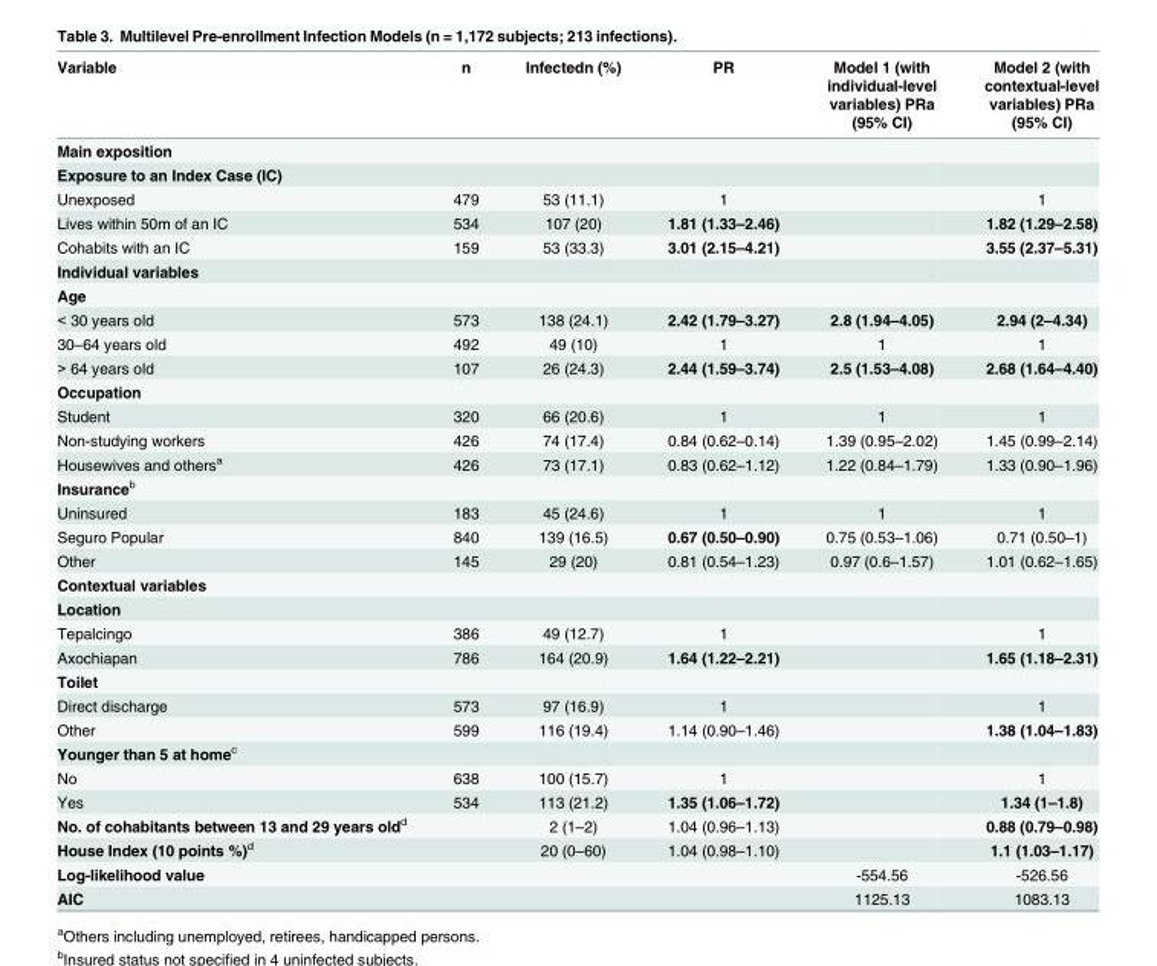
<table><thead><tr><td>Variable</td><td>n</td><td>Infectedn (%)</td><td>PR</td><td>Model 1 (with individual-level variables) PRa (95% CI)</td><td>Model 2 (with contextual-level variables) PRa (95% CI)</td></tr></thead><tbody><tr><td colspan="6">Main exposition</td></tr><tr><td colspan="6">Exposure to an Index Case (IC)</td></tr><tr><td>Unexposed</td><td>479</td><td>53 (11.1)</td><td>1</td><td></td><td>1</td></tr><tr><td>Lives within 50m of an IC</td><td>534</td><td>107 (20)</td><td>1.81 (1.33–2.46)</td><td></td><td>1.82 (1.29–2.58)</td></tr><tr><td>Cohabits with an IC</td><td>159</td><td>53 (33.3)</td><td>3.01 (2.15–4.21)</td><td></td><td>3.55 (2.37–5.31)</td></tr><tr><td colspan="6">Individual variables</td></tr><tr><td colspan="6">Age</td></tr><tr><td>&lt; 30 years old</td><td>573</td><td>138 (24.1)</td><td>2.42 (1.79–3.27)</td><td>2.8 (1.94–4.05)</td><td>2.94 (2–4.34)</td></tr><tr><td>30–64 years old</td><td>492</td><td>49 (10)</td><td>1</td><td>1</td><td>1</td></tr><tr><td>&gt; 64 years old</td><td>107</td><td>26 (24.3)</td><td>2.44 (1.59–3.74)</td><td>2.5 (1.53–4.08)</td><td>2.68 (1.64–4.40)</td></tr><tr><td colspan="6">Occupation</td></tr><tr><td>Student</td><td>320</td><td>66 (20.6)</td><td>1</td><td>1</td><td>1</td></tr><tr><td>Non-studying workers</td><td>426</td><td>74 (17.4)</td><td>0.84 (0.62–0.14)</td><td>1.39 (0.95–2.02)</td><td>1.45 (0.99–2.14)</td></tr><tr><td>Housewives and others<sup>a</sup></td><td>426</td><td>73 (17.1)</td><td>0.83 (0.62–1.12)</td><td>1.22 (0.84–1.79)</td><td>1.33 (0.90–1.96)</td></tr><tr><td colspan="6">Insurance<sup>b</sup></td></tr><tr><td>Uninsured</td><td>183</td><td>45 (24.6)</td><td>1</td><td>1</td><td>1</td></tr><tr><td>Seguro Popular</td><td>840</td><td>139 (16.5)</td><td>0.67 (0.50–0.90)</td><td>0.75 (0.53–1.06)</td><td>0.71 (0.50–1)</td></tr><tr><td>Other</td><td>145</td><td>29 (20)</td><td>0.81 (0.54–1.23)</td><td>0.97 (0.6–1.57)</td><td>1.01 (0.62–1.65)</td></tr><tr><td colspan="6">Contextual variables</td></tr><tr><td colspan="6">Location</td></tr><tr><td>Tepalcingo</td><td>386</td><td>49 (12.7)</td><td>1</td><td></td><td>1</td></tr><tr><td>Axochiapan</td><td>786</td><td>164 (20.9)</td><td>1.64 (1.22–2.21)</td><td></td><td>1.65 (1.18–2.31)</td></tr><tr><td colspan="6">Toilet</td></tr><tr><td>Direct discharge</td><td>573</td><td>97 (16.9)</td><td>1</td><td></td><td>1</td></tr><tr><td>Other</td><td>599</td><td>116 (19.4)</td><td>1.14 (0.90–1.46)</td><td></td><td>1.38 (1.04–1.83)</td></tr><tr><td colspan="6">Younger than 5 at home<sup>c</sup></td></tr><tr><td>No</td><td>638</td><td>100 (15.7)</td><td>1</td><td></td><td>1</td></tr><tr><td>Yes</td><td>534</td><td>113 (21.2)</td><td>1.35 (1.06–1.72)</td><td></td><td>1.34 (1–1.8)</td></tr><tr><td>No. of cohabitants between 13 and 29 years old<sup>d</sup></td><td></td><td>2 (1–2)</td><td>1.04 (0.96–1.13)</td><td></td><td>0.88 (0.79–0.98)</td></tr><tr><td>House Index (10 points %)<sup>d</sup></td><td></td><td>20 (0–60)</td><td>1.04 (0.98–1.10)</td><td></td><td>1.1 (1.03–1.17)</td></tr><tr><td>Log-likelihood value</td><td></td><td></td><td></td><td>-554.56</td><td>-526.56</td></tr><tr><td>AIC</td><td></td><td></td><td></td><td>1125.13</td><td>1083.13</td></tr></tbody></table>